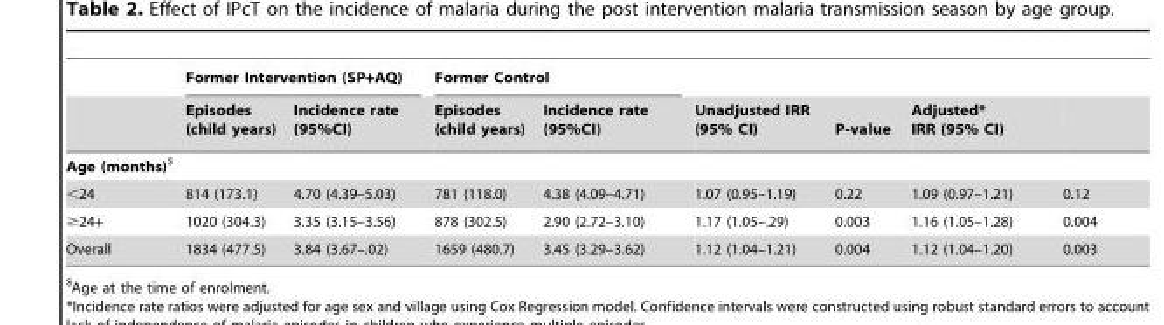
<table><thead><tr><td rowspan="2"></td><td colspan="2">Former Intervention (SP+AQ)</td><td colspan="2">Former Control</td><td rowspan="2">Unadjusted IRR (95% CI)</td><td rowspan="2">P-value</td><td rowspan="2">Adjusted* IRR (95% CI)</td><td rowspan="2"></td></tr><tr><td>Episodes (child years)</td><td>Incidence rate (95%CI)</td><td>Episodes (child years)</td><td>Incidence rate (95%CI)</td></tr></thead><tbody><tr><td colspan="9">Age (months)$</td></tr><tr><td>&lt;24</td><td>814 (173.1)</td><td>4.70 (4.39–5.03)</td><td>781 (118.0)</td><td>4.38 (4.09–4.71)</td><td>1.07 (0.95–1.19)</td><td>0.22</td><td>1.09 (0.97–1.21)</td><td>0.12</td></tr><tr><td>≥24+</td><td>1020 (304.3)</td><td>3.35 (3.15–3.56)</td><td>878 (302.5)</td><td>2.90 (2.72–3.10)</td><td>1.17 (1.05–.29)</td><td>0.003</td><td>1.16 (1.05–1.28)</td><td>0.004</td></tr><tr><td>Overall</td><td>1834 (477.5)</td><td>3.84 (3.67–.02)</td><td>1659 (480.7)</td><td>3.45 (3.29–3.62)</td><td>1.12 (1.04–1.21)</td><td>0.004</td><td>1.12 (1.04–1.20)</td><td>0.003</td></tr></tbody></table>